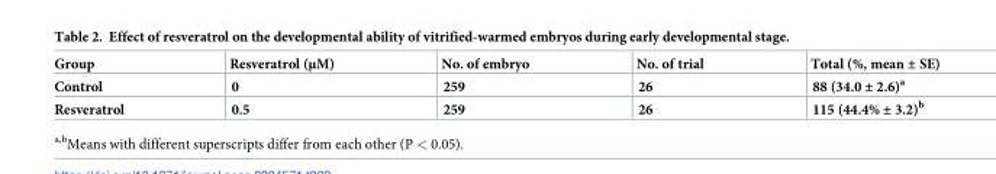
<table><thead><tr><td>Group</td><td>Resveratrol (μM)</td><td>No. of embryo</td><td>No. of trial</td><td>Total (%, mean ± SE)</td></tr></thead><tbody><tr><td>Control</td><td>0</td><td>259</td><td>26</td><td>88 (34.0 ± 2.6)<sup>a</sup></td></tr><tr><td>Resveratrol</td><td>0.5</td><td>259</td><td>26</td><td>115 (44.4% ± 3.2)<sup>b</sup></td></tr></tbody></table>